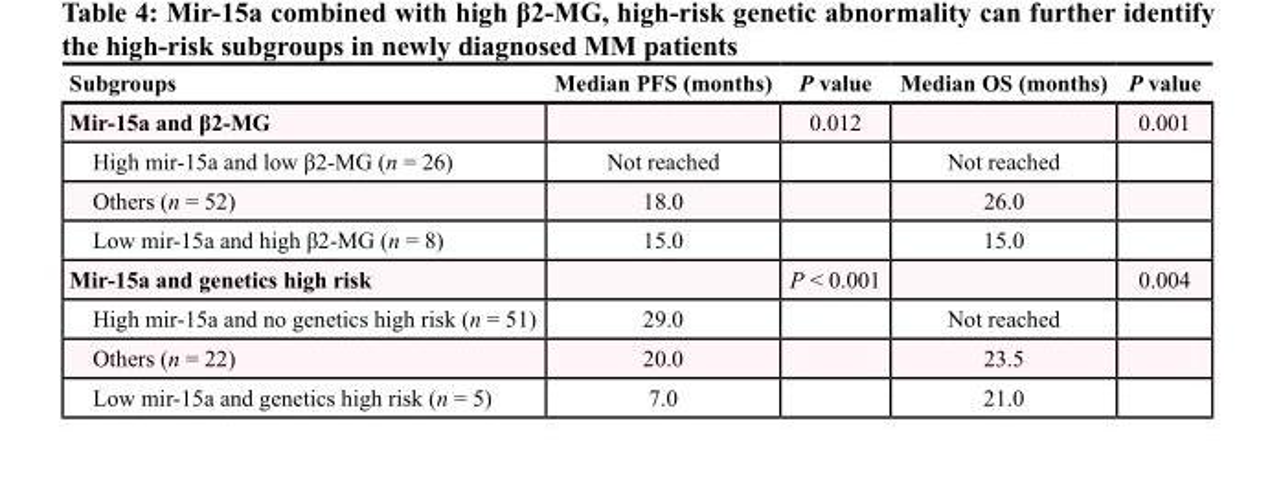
<table><thead><tr><td>Subgroups</td><td>Median PFS (months)</td><td>P value</td><td>Median OS (months)</td><td>P value</td></tr></thead><tbody><tr><td>Mir-15a and β2-MG</td><td></td><td>0.012</td><td></td><td>0.001</td></tr><tr><td>High mir-15a and low β2-MG (n = 26)</td><td>Not reached</td><td></td><td>Not reached</td><td></td></tr><tr><td>Others (n = 52)</td><td>18.0</td><td></td><td>26.0</td><td></td></tr><tr><td>Low mir-15a and high β2-MG (n = 8)</td><td>15.0</td><td></td><td>15.0</td><td></td></tr><tr><td>Mir-15a and genetics high risk</td><td></td><td>P &lt; 0.001</td><td></td><td>0.004</td></tr><tr><td>High mir-15a and no genetics high risk (n = 51)</td><td>29.0</td><td></td><td>Not reached</td><td></td></tr><tr><td>Others (n = 22)</td><td>20.0</td><td></td><td>23.5</td><td></td></tr><tr><td>Low mir-15a and genetics high risk (n = 5)</td><td>7.0</td><td></td><td>21.0</td><td></td></tr></tbody></table>